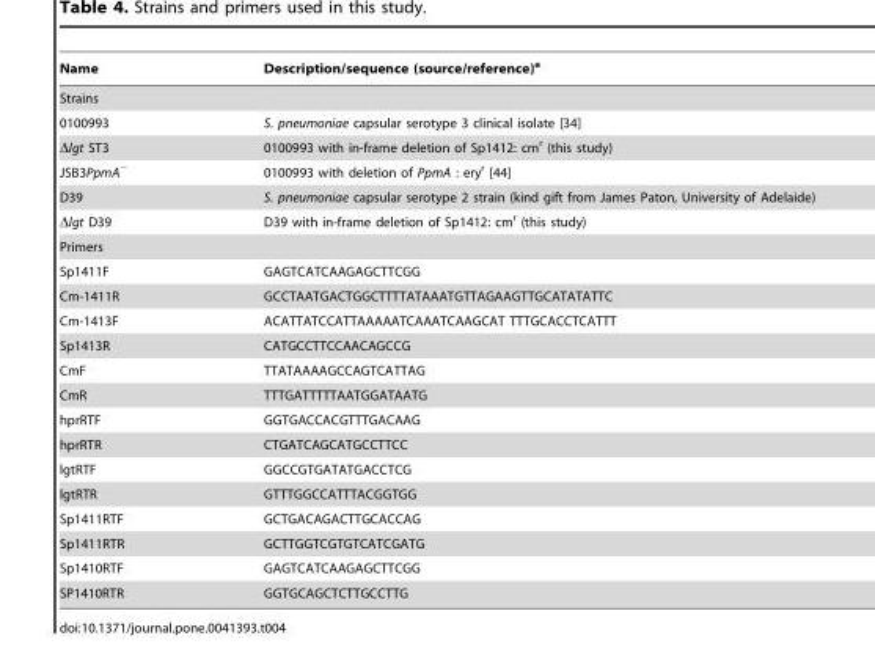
<table><thead><tr><td>Name</td><td>Description/sequence (source/reference)<sup>a</sup></td></tr></thead><tbody><tr><td colspan="2">Strains</td></tr><tr><td>0100993</td><td>S. pneumoniae capsular serotype 3 clinical isolate [34]</td></tr><tr><td>Δlgt ST3</td><td>0100993 with in-frame deletion of Sp1412: cm<sup>r</sup> (this study)</td></tr><tr><td>JSB3PpmA<sup>−</sup></td><td>0100993 with deletion of PpmA : ery<sup>r</sup> [44]</td></tr><tr><td>D39</td><td>S. pneumoniae capsular serotype 2 strain (kind gift from James Paton, University of Adelaide)</td></tr><tr><td>Δlgt D39</td><td>D39 with in-frame deletion of Sp1412: cm<sup>r</sup> (this study)</td></tr><tr><td colspan="2">Primers</td></tr><tr><td>Sp1411F</td><td>GAGTCATCAAGAGCTTCGG</td></tr><tr><td>Cm-1411R</td><td>GCCTAATGACTGGCTTTTATAAATGTTAGAAGTTGCATATATTC</td></tr><tr><td>Cm-1413F</td><td>ACATTATCCATTAAAAATCAAATCAAGCAT TTTGCACCTCATTT</td></tr><tr><td>Sp1413R</td><td>CATGCCTTCCAACAGCCG</td></tr><tr><td>CmF</td><td>TTATAAAAGCCAGTCATTAG</td></tr><tr><td>CmR</td><td>TTTGATTTTTAATGGATAATG</td></tr><tr><td>hprRTF</td><td>GGTGACCACGTTTGACAAG</td></tr><tr><td>hprRTR</td><td>CTGATCAGCATGCCTTCC</td></tr><tr><td>lgtRTF</td><td>GGCCGTGATATGACCTCG</td></tr><tr><td>lgtRTR</td><td>GTTTGGCCATTTACGGTGG</td></tr><tr><td>Sp1411RTF</td><td>GCTGACAGACTTGCACCAG</td></tr><tr><td>Sp1411RTR</td><td>GCTTGGTCGTGTCATCGATG</td></tr><tr><td>Sp1410RTF</td><td>GAGTCATCAAGAGCTTCGG</td></tr><tr><td>SP1410RTR</td><td>GGTGCAGCTCTTGCCTTG</td></tr></tbody></table>